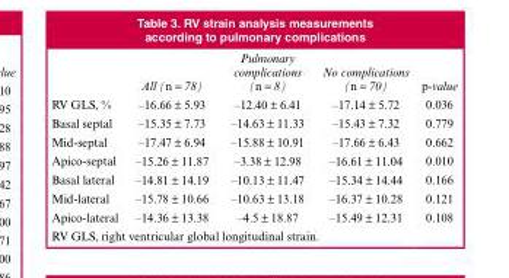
<table><thead><tr><td></td><td>All (n = 78)</td><td>Pulmonary complications (n = 8)</td><td>No complications (n = 70)</td><td>p-value</td></tr></thead><tbody><tr><td>RV GLS, %</td><td>–16.66 ± 5.93</td><td>–12.40 ± 6.41</td><td>–17.14 ± 5.72</td><td>0.036</td></tr><tr><td>Basal septal</td><td>–15.35 ± 7.73</td><td>–14.63 ± 11.33</td><td>–15.43 ± 7.32</td><td>0.779</td></tr><tr><td>Mid-septal</td><td>–17.47 ± 6.94</td><td>–15.88 ± 10.91</td><td>–17.66 ± 6.43</td><td>0.662</td></tr><tr><td>Apico-septal</td><td>–15.26 ± 11.87</td><td>–3.38 ± 12.98</td><td>–16.61 ± 11.04</td><td>0.010</td></tr><tr><td>Basal lateral</td><td>–14.81 ± 14.19</td><td>–10.13 ± 11.47</td><td>–15.34 ± 14.44</td><td>0.166</td></tr><tr><td>Mid-lateral</td><td>–15.78 ± 10.66</td><td>–10.63 ± 13.18</td><td>–16.37 ± 10.28</td><td>0.121</td></tr><tr><td>Apico-lateral</td><td>–14.36 ± 13.38</td><td>–4.5 ± 18.87</td><td>–15.49 ± 12.31</td><td>0.108</td></tr></tbody></table>